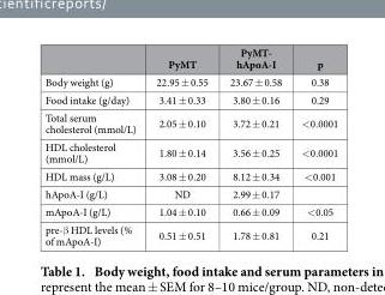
<table><thead><tr><td></td><td>PyMT</td><td>PyMT- hApoA-I</td><td>p</td></tr></thead><tbody><tr><td>Body weight (g)</td><td>22.95 ± 0.55</td><td>23.67 ± 0.58</td><td>0.38</td></tr><tr><td>Food intake (g/day)</td><td>3.41 ± 0.33</td><td>3.80 ± 0.16</td><td>0.29</td></tr><tr><td>Total serum cholesterol (mmol/L)</td><td>2.05 ± 0.10</td><td>3.72 ± 0.21</td><td>&lt; 0.0001</td></tr><tr><td>HDL cholesterol (mmol/L)</td><td>1.80 ± 0.14</td><td>3.56 ± 0.25</td><td>&lt; 0.0001</td></tr><tr><td>HDL mass (g/L)</td><td>3.08 ± 0.20</td><td>8.12 ± 0.34</td><td>&lt; 0.001</td></tr><tr><td>hApoA-I (g/L)</td><td>ND</td><td>2.99 ± 0.17</td><td></td></tr><tr><td>mApoA-I (g/L)</td><td>1.04 ± 0.10</td><td>0.66 ± 0.09</td><td>&lt; 0.05</td></tr><tr><td>pre-β HDL levels (% of mApoA-I)</td><td>0.51 ± 0.51</td><td>1.78 ± 0.81</td><td>0.21</td></tr></tbody></table>